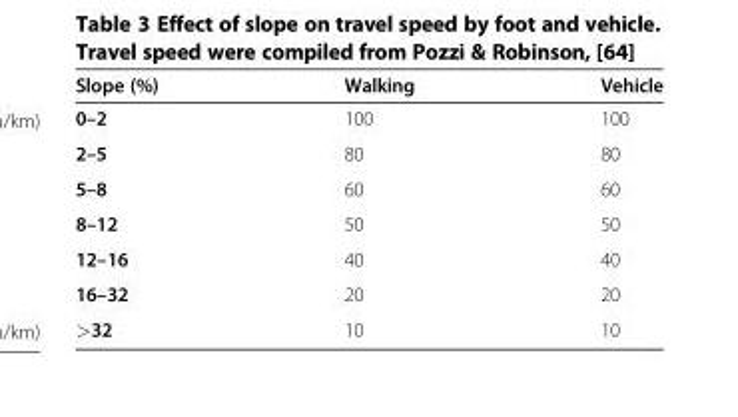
<table><thead><tr><td>Slope (%)</td><td>Walking</td><td>Vehicle</td></tr></thead><tbody><tr><td>0–2</td><td>100</td><td>100</td></tr><tr><td>2–5</td><td>80</td><td>80</td></tr><tr><td>5–8</td><td>60</td><td>60</td></tr><tr><td>8–12</td><td>50</td><td>50</td></tr><tr><td>12–16</td><td>40</td><td>40</td></tr><tr><td>16–32</td><td>20</td><td>20</td></tr><tr><td>&gt;32</td><td>10</td><td>10</td></tr></tbody></table>